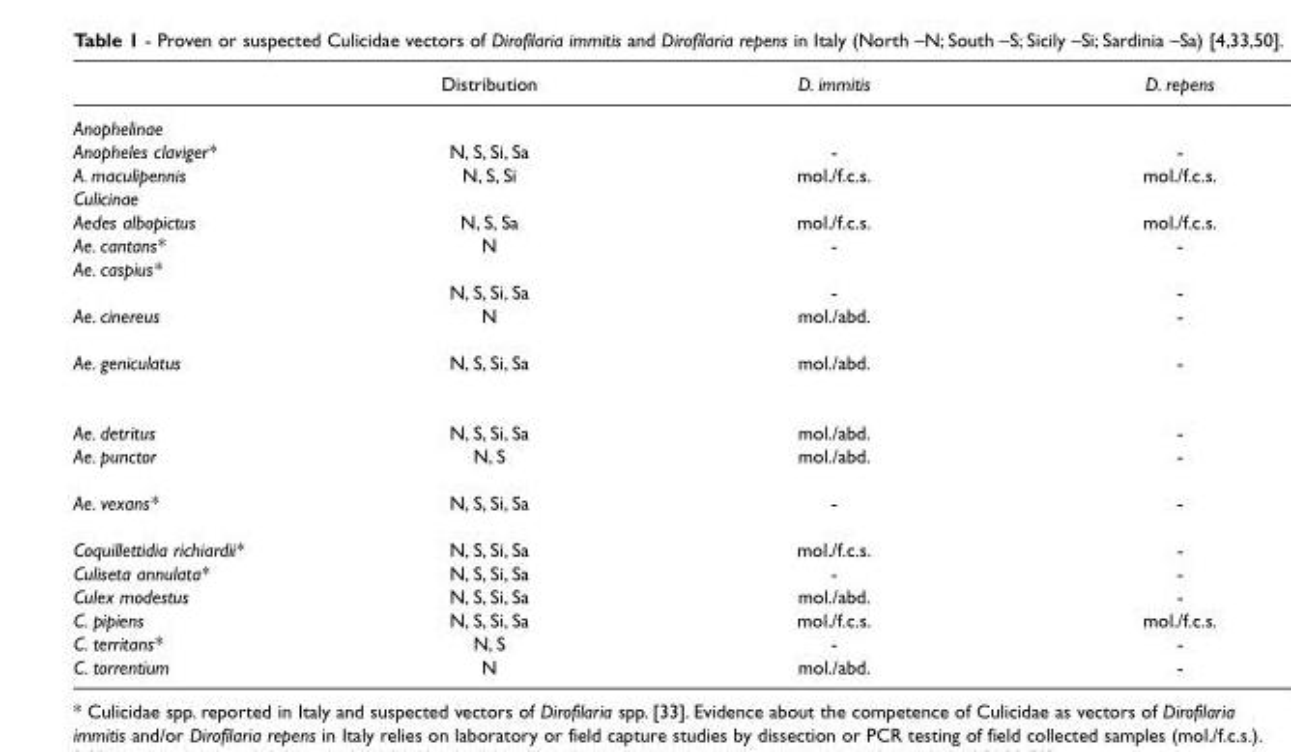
<table><thead><tr><td></td><td>Distribution</td><td>D. immitis</td><td>D. repens</td></tr></thead><tbody><tr><td colspan="4">Anophelinae</td></tr><tr><td>Anopheles claviger*</td><td>N, S, Si, Sa</td><td>-</td><td>-</td></tr><tr><td>A. maculipennis</td><td>N, S, Si</td><td>mol./f.c.s.</td><td>mol./f.c.s.</td></tr><tr><td colspan="4">Culicinae</td></tr><tr><td>Aedes albopictus</td><td>N, S, Sa</td><td>mol./f.c.s.</td><td>mol./f.c.s.</td></tr><tr><td>Ae. cantans*</td><td>N</td><td>-</td><td>-</td></tr><tr><td colspan="4">Ae. caspius*</td></tr><tr><td rowspan="2">Ae. cinereus</td><td>N, S, Si, Sa</td><td>-</td><td>-</td></tr><tr><td>N</td><td>mol./abd.</td><td>-</td></tr><tr><td>Ae. geniculatus</td><td>N, S, Si, Sa</td><td>mol./abd.</td><td>-</td></tr><tr><td>Ae. detritus</td><td>N, S, Si, Sa</td><td>mol./abd.</td><td>-</td></tr><tr><td>Ae. punctor</td><td>N, S</td><td>mol./abd.</td><td>-</td></tr><tr><td>Ae. vexans*</td><td>N, S, Si, Sa</td><td>-</td><td>-</td></tr><tr><td>Coquillettidia richiardii*</td><td>N, S, Si, Sa</td><td>mol./f.c.s.</td><td>-</td></tr><tr><td>Culiseta annulata*</td><td>N, S, Si, Sa</td><td>-</td><td>-</td></tr><tr><td>Culex modestus</td><td>N, S, Si, Sa</td><td>mol./abd.</td><td>-</td></tr><tr><td>C. pipiens</td><td>N, S, Si, Sa</td><td>mol./f.c.s.</td><td>mol./f.c.s.</td></tr><tr><td>C. territans*</td><td>N, S</td><td>-</td><td>-</td></tr><tr><td>C. torrentium</td><td>N</td><td>mol./abd.</td><td>-</td></tr></tbody></table>